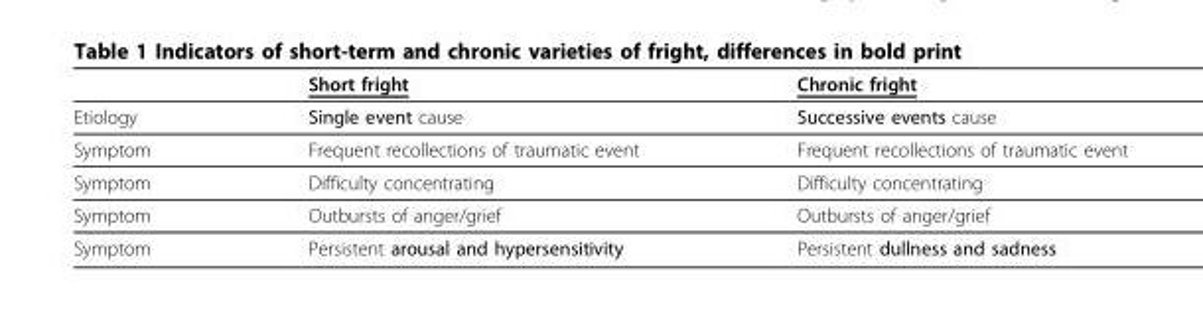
<table><thead><tr><td></td><td>Short fright</td><td>Chronic fright</td></tr></thead><tbody><tr><td>Etiology</td><td>Single event cause</td><td>Successive events cause</td></tr><tr><td>Symptom</td><td>Frequent recollections of traumatic event</td><td>Frequent recollections of traumatic event</td></tr><tr><td>Symptom</td><td>Difficulty concentrating</td><td>Difficulty concentrating</td></tr><tr><td>Symptom</td><td>Outbursts of anger/grief</td><td>Outbursts of anger/grief</td></tr><tr><td>Symptom</td><td>Persistent arousal and hypersensitivity</td><td>Persistent dullness and sadness</td></tr></tbody></table>